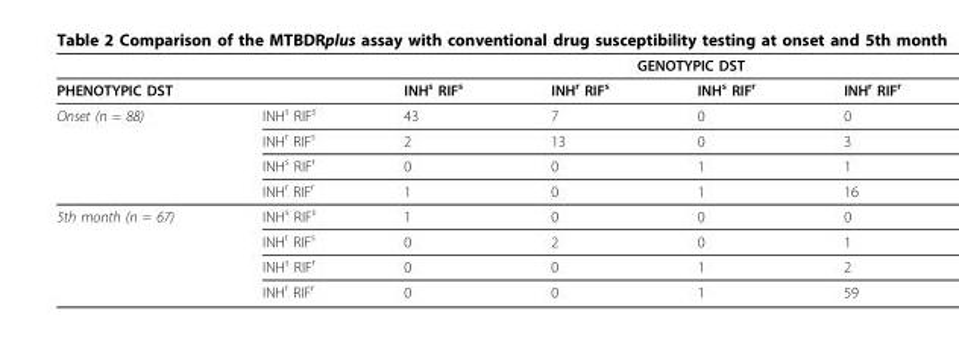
<table><thead><tr><td rowspan="2">PHENOTYPIC DST</td><td rowspan="2"></td><td colspan="4">GENOTYPIC DST</td></tr><tr><td>INHs RIFs</td><td>INHr RIFs</td><td>INHs RIFr</td><td>INHr RIFr</td></tr></thead><tbody><tr><td rowspan="4">Onset (n = 88)</td><td>INHs RIFs</td><td>43</td><td>7</td><td>0</td><td>0</td></tr><tr><td>INHr RIFs</td><td>2</td><td>13</td><td>0</td><td>3</td></tr><tr><td>INHs RIFr</td><td>0</td><td>0</td><td>1</td><td>1</td></tr><tr><td>INHr RIFr</td><td>1</td><td>0</td><td>1</td><td>16</td></tr><tr><td rowspan="4">5th month (n = 67)</td><td>INHs RIFs</td><td>1</td><td>0</td><td>0</td><td>0</td></tr><tr><td>INHr RIFs</td><td>0</td><td>2</td><td>0</td><td>1</td></tr><tr><td>INHs RIFr</td><td>0</td><td>0</td><td>1</td><td>2</td></tr><tr><td>INHr RIFr</td><td>0</td><td>0</td><td>1</td><td>59</td></tr></tbody></table>